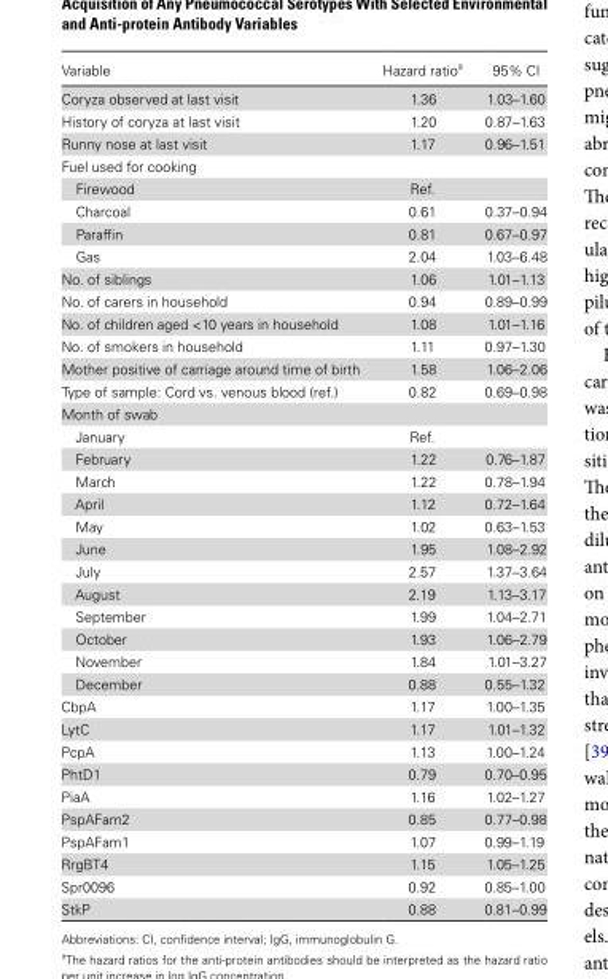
<table><thead><tr><td>Variable</td><td>Hazard ratio<sup>a</sup></td><td>95% CI</td></tr></thead><tbody><tr><td>Coryza observed at last visit</td><td>1.36</td><td>1.03–1.60</td></tr><tr><td>History of coryza at last visit</td><td>1.20</td><td>0.87–1.63</td></tr><tr><td>Runny nose at last visit</td><td>1.17</td><td>0.96–1.51</td></tr><tr><td colspan="3">Fuel used for cooking</td></tr><tr><td>Firewood</td><td>Ref.</td><td></td></tr><tr><td>Charcoal</td><td>0.61</td><td>0.37–0.94</td></tr><tr><td>Paraffin</td><td>0.81</td><td>0.67–0.97</td></tr><tr><td>Gas</td><td>2.04</td><td>1.03–6.48</td></tr><tr><td>No. of siblings</td><td>1.06</td><td>1.01–1.13</td></tr><tr><td>No. of carers in household</td><td>0.94</td><td>0.89–0.99</td></tr><tr><td>No. of children aged &lt;10 years in household</td><td>1.08</td><td>1.01–1.16</td></tr><tr><td>No. of smokers in household</td><td>1.11</td><td>0.97–1.30</td></tr><tr><td>Mother positive of carriage around time of birth</td><td>1.58</td><td>1.06–2.06</td></tr><tr><td>Type of sample: Cord vs. venous blood (ref.)</td><td>0.82</td><td>0.69–0.98</td></tr><tr><td colspan="3">Month of swab</td></tr><tr><td>January</td><td>Ref.</td><td></td></tr><tr><td>February</td><td>1.22</td><td>0.76–1.87</td></tr><tr><td>March</td><td>1.22</td><td>0.78–1.94</td></tr><tr><td>April</td><td>1.12</td><td>0.72–1.64</td></tr><tr><td>May</td><td>1.02</td><td>0.63–1.53</td></tr><tr><td>June</td><td>1.95</td><td>1.08–2.92</td></tr><tr><td>July</td><td>2.57</td><td>1.37–3.64</td></tr><tr><td>August</td><td>2.19</td><td>1.13–3.17</td></tr><tr><td>September</td><td>1.99</td><td>1.04–2.71</td></tr><tr><td>October</td><td>1.93</td><td>1.06–2.79</td></tr><tr><td>November</td><td>1.84</td><td>1.01–3.27</td></tr><tr><td>December</td><td>0.88</td><td>0.55–1.32</td></tr><tr><td>CbpA</td><td>1.17</td><td>1.00–1.35</td></tr><tr><td>LytC</td><td>1.17</td><td>1.01–1.32</td></tr><tr><td>PcpA</td><td>1.13</td><td>1.00–1.24</td></tr><tr><td>PhtD1</td><td>0.79</td><td>0.70–0.95</td></tr><tr><td>PiaA</td><td>1.16</td><td>1.02–1.27</td></tr><tr><td>PspAFam2</td><td>0.85</td><td>0.77–0.98</td></tr><tr><td>PspAFam1</td><td>1.07</td><td>0.99–1.19</td></tr><tr><td>RrgBT4</td><td>1.15</td><td>1.05–1.25</td></tr><tr><td>Spr0096</td><td>0.92</td><td>0.85–1.00</td></tr><tr><td>StkP</td><td>0.88</td><td>0.81–0.99</td></tr></tbody></table>